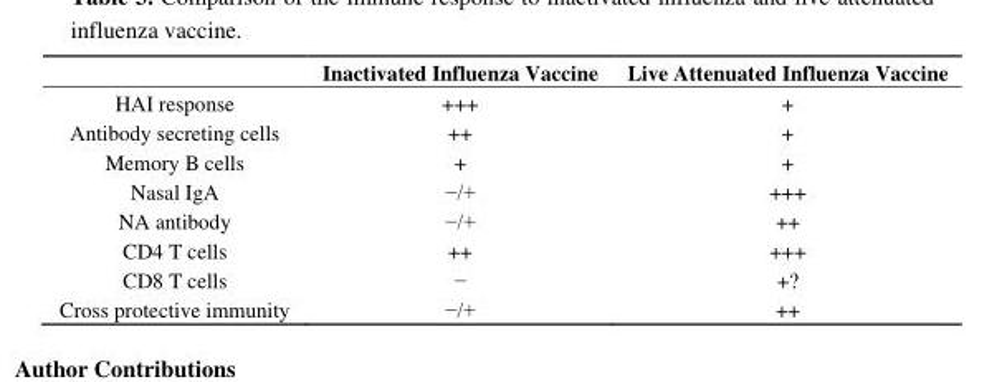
<table><thead><tr><td></td><td>Inactivated Influenza Vaccine</td><td>Live Attenuated Influenza Vaccine</td></tr></thead><tbody><tr><td>HAI response</td><td>+++</td><td>+</td></tr><tr><td>Antibody secreting cells</td><td>++</td><td>+</td></tr><tr><td>Memory B cells</td><td>+</td><td>+</td></tr><tr><td>Nasal IgA</td><td>−/+</td><td>+++</td></tr><tr><td>NA antibody</td><td>−/+</td><td>++</td></tr><tr><td>CD4 T cells</td><td>++</td><td>+++</td></tr><tr><td>CD8 T cells</td><td>−</td><td>+?</td></tr><tr><td>Cross protective immunity</td><td>−/+</td><td>++</td></tr></tbody></table>